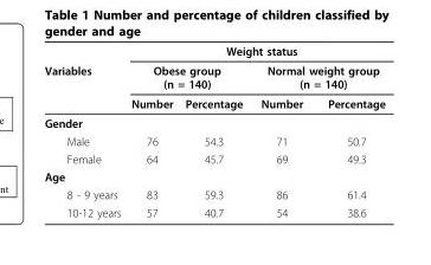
<table><thead><tr><td rowspan="3">Variables</td><td colspan="4">Weight status</td></tr><tr><td colspan="2">Obese group (n = 140)</td><td colspan="2">Normal weight group (n = 140)</td></tr><tr><td>Number</td><td>Percentage</td><td>Number</td><td>Percentage</td></tr></thead><tbody><tr><td colspan="5">Gender</td></tr><tr><td>Male</td><td>76</td><td>54.3</td><td>71</td><td>50.7</td></tr><tr><td>Female</td><td>64</td><td>45.7</td><td>69</td><td>49.3</td></tr><tr><td colspan="5">Age</td></tr><tr><td>8 - 9 years</td><td>83</td><td>59.3</td><td>86</td><td>61.4</td></tr><tr><td>10-12 years</td><td>57</td><td>40.7</td><td>54</td><td>38.6</td></tr></tbody></table>